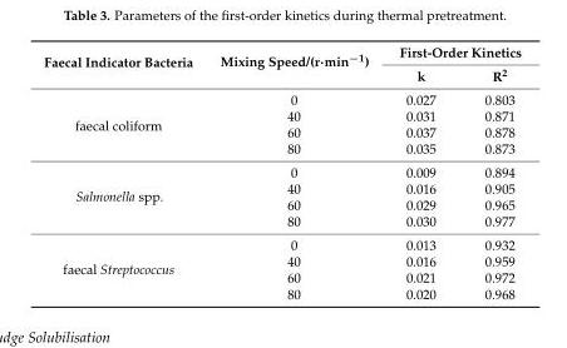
<table><thead><tr><td rowspan="2">Faecal Indicator Bacteria</td><td rowspan="2">Mixing Speed/(r·min<sup>−1</sup>)</td><td colspan="2">First-Order Kinetics</td></tr><tr><td>k</td><td>R<sup>2</sup></td></tr></thead><tbody><tr><td rowspan="4">faecal coliform</td><td>0</td><td>0.027</td><td>0.803</td></tr><tr><td>40</td><td>0.031</td><td>0.871</td></tr><tr><td>60</td><td>0.037</td><td>0.878</td></tr><tr><td>80</td><td>0.035</td><td>0.873</td></tr><tr><td rowspan="4">Salmonella spp.</td><td>0</td><td>0.009</td><td>0.894</td></tr><tr><td>40</td><td>0.016</td><td>0.905</td></tr><tr><td>60</td><td>0.029</td><td>0.965</td></tr><tr><td>80</td><td>0.030</td><td>0.977</td></tr><tr><td rowspan="4">faecal Streptococcus</td><td>0</td><td>0.013</td><td>0.932</td></tr><tr><td>40</td><td>0.016</td><td>0.959</td></tr><tr><td>60</td><td>0.021</td><td>0.972</td></tr><tr><td>80</td><td>0.020</td><td>0.968</td></tr></tbody></table>